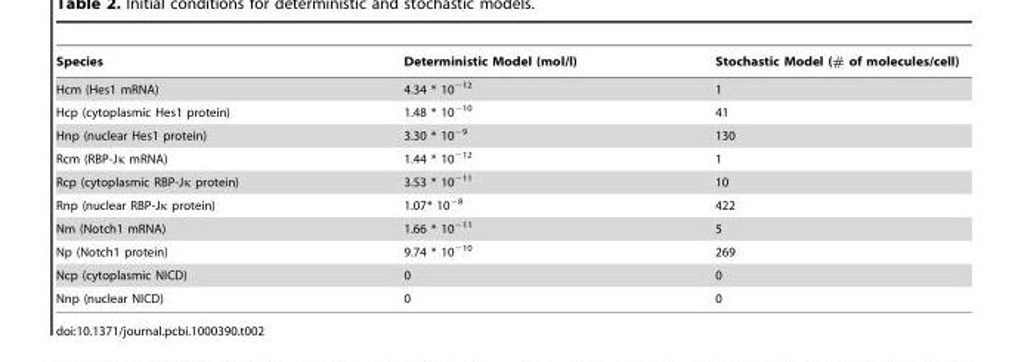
<table><thead><tr><td>Species</td><td>Deterministic Model (mol/l)</td><td>Stochastic Model (# of molecules/cell)</td></tr></thead><tbody><tr><td>Hcm (Hes1 mRNA)</td><td>4.34 * 10<sup>−12</sup></td><td>1</td></tr><tr><td>Hcp (cytoplasmic Hes1 protein)</td><td>1.48 * 10<sup>−10</sup></td><td>41</td></tr><tr><td>Hnp (nuclear Hes1 protein)</td><td>3.30 * 10<sup>−9</sup></td><td>130</td></tr><tr><td>Rcm (RBP-Jκ mRNA)</td><td>1.44 * 10<sup>−12</sup></td><td>1</td></tr><tr><td>Rcp (cytoplasmic RBP-Jκ protein)</td><td>3.53 * 10<sup>−11</sup></td><td>10</td></tr><tr><td>Rnp (nuclear RBP-Jκ protein)</td><td>1.07* 10<sup>−8</sup></td><td>422</td></tr><tr><td>Nm (Notch1 mRNA)</td><td>1.66 * 10<sup>−11</sup></td><td>5</td></tr><tr><td>Np (Notch1 protein)</td><td>9.74 * 10<sup>−10</sup></td><td>269</td></tr><tr><td>Ncp (cytoplasmic NICD)</td><td>0</td><td>0</td></tr><tr><td>Nnp (nuclear NICD)</td><td>0</td><td>0</td></tr></tbody></table>